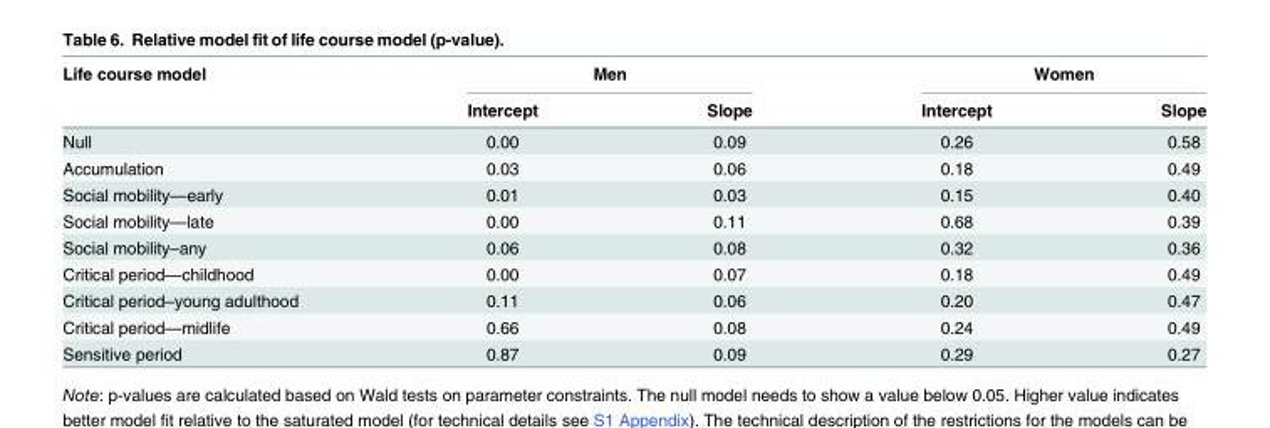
<table><thead><tr><td rowspan="2">Life course model</td><td colspan="2">Men</td><td colspan="2">Women</td></tr><tr><td>Intercept</td><td>Slope</td><td>Intercept</td><td>Slope</td></tr></thead><tbody><tr><td>Null</td><td>0.00</td><td>0.09</td><td>0.26</td><td>0.58</td></tr><tr><td>Accumulation</td><td>0.03</td><td>0.06</td><td>0.18</td><td>0.49</td></tr><tr><td>Social mobility—early</td><td>0.01</td><td>0.03</td><td>0.15</td><td>0.40</td></tr><tr><td>Social mobility—late</td><td>0.00</td><td>0.11</td><td>0.68</td><td>0.39</td></tr><tr><td>Social mobility–any</td><td>0.06</td><td>0.08</td><td>0.32</td><td>0.36</td></tr><tr><td>Critical period—childhood</td><td>0.00</td><td>0.07</td><td>0.18</td><td>0.49</td></tr><tr><td>Critical period–young adulthood</td><td>0.11</td><td>0.06</td><td>0.20</td><td>0.47</td></tr><tr><td>Critical period—midlife</td><td>0.66</td><td>0.08</td><td>0.24</td><td>0.49</td></tr><tr><td>Sensitive period</td><td>0.87</td><td>0.09</td><td>0.29</td><td>0.27</td></tr></tbody></table>